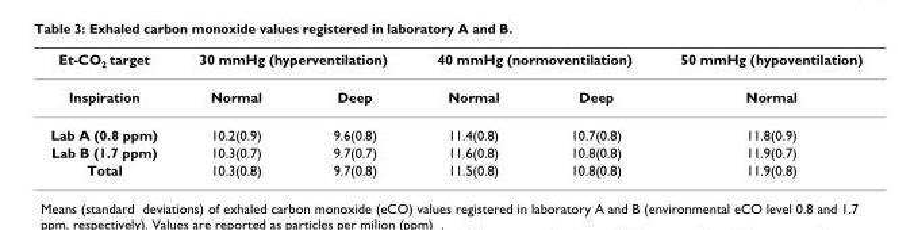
<table><thead><tr><td rowspan="2">Et-CO2 target Inspiration</td><td colspan="2">30 mmHg (hyperventilation)</td><td colspan="2">40 mmHg (normoventilation)</td><td rowspan="2">50 mmHg (hypoventilation) Normal</td></tr><tr><td>Normal</td><td>Deep</td><td>Normal</td><td>Deep</td></tr></thead><tbody><tr><td>Lab A (0.8 ppm)</td><td>10.2(0.9)</td><td>9.6(0.8)</td><td>11.4(0.8)</td><td>10.7(0.8)</td><td>11.8(0.9)</td></tr><tr><td>Lab B (1.7 ppm)</td><td>10.3(0.7)</td><td>9.7(0.7)</td><td>11.6(0.8)</td><td>10.8(0.8)</td><td>11.9(0.7)</td></tr><tr><td>Total</td><td>10.3(0.8)</td><td>9.7(0.8)</td><td>11.5(0.8)</td><td>10.8(0.8)</td><td>11.9(0.8)</td></tr></tbody></table>